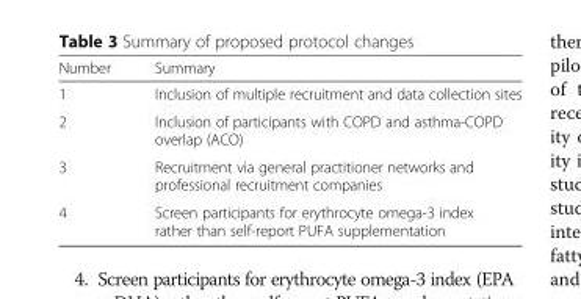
<table><thead><tr><td>Number</td><td>Summary</td></tr></thead><tbody><tr><td>1</td><td>Inclusion of multiple recruitment and data collection sites</td></tr><tr><td>2</td><td>Inclusion of participants with COPD and asthma-COPD overlap (ACO)</td></tr><tr><td>3</td><td>Recruitment via general practitioner networks and professional recruitment companies</td></tr><tr><td>4</td><td>Screen participants for erythrocyte omega-3 index rather than self-report PUFA supplementation</td></tr></tbody></table>